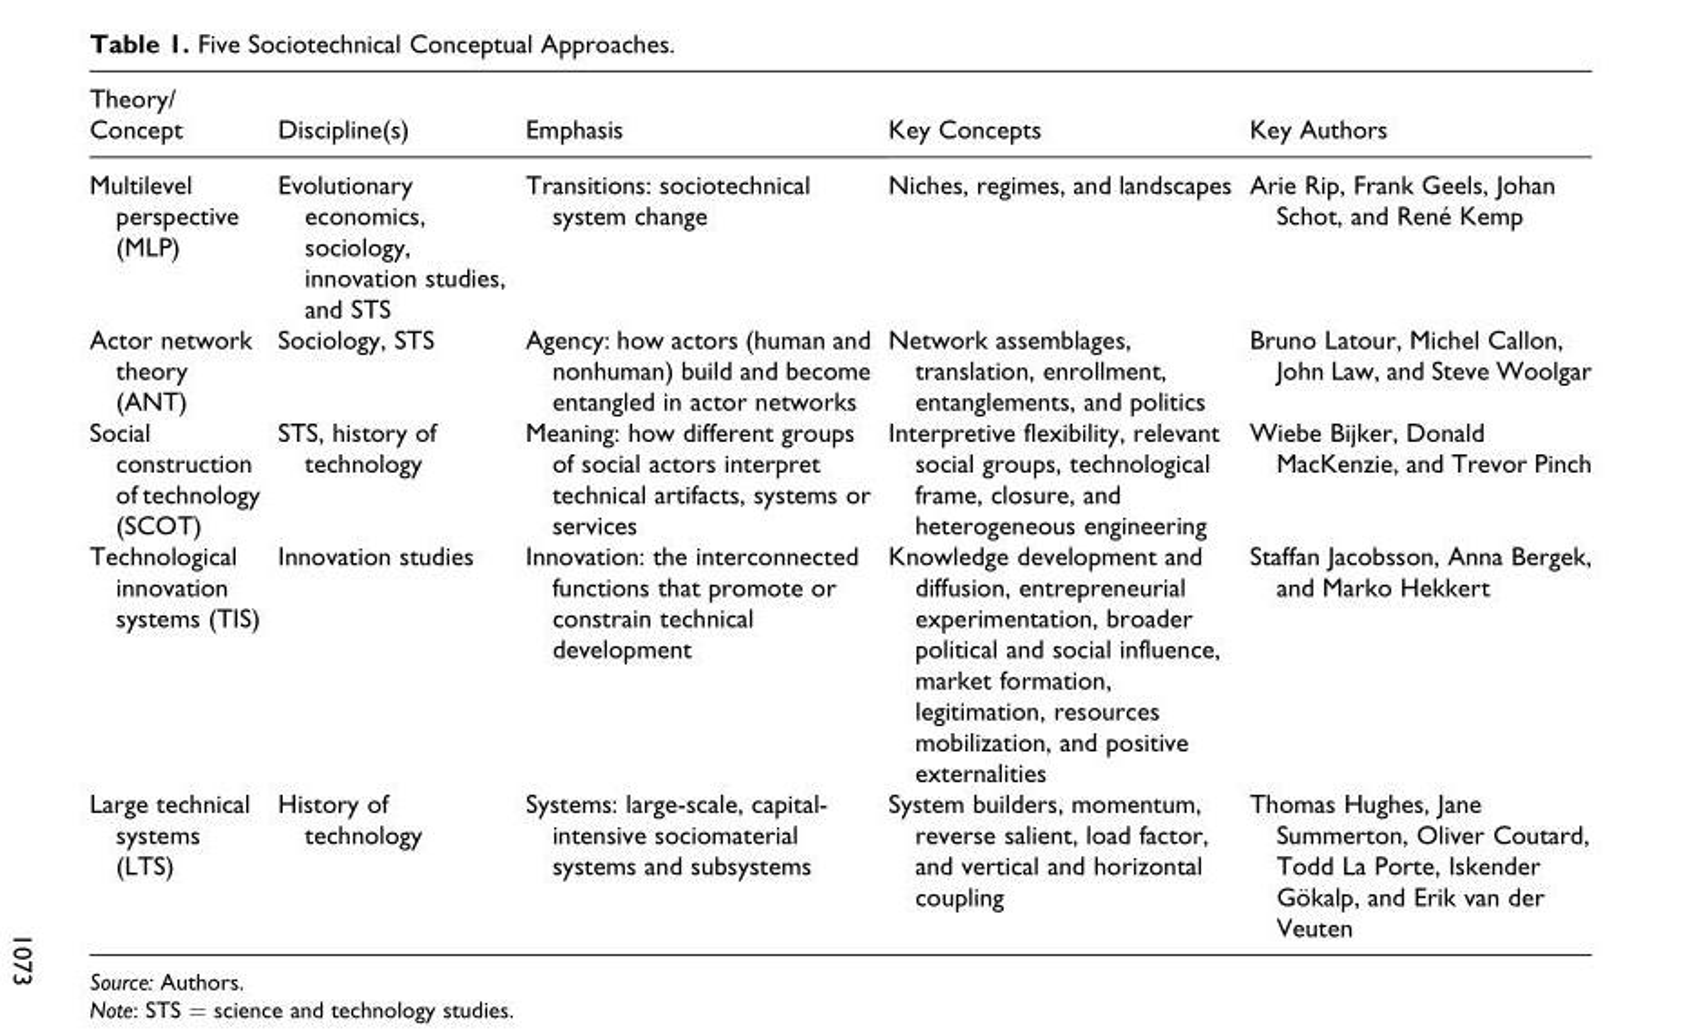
<table><thead><tr><td>Theory/ Concept</td><td>Discipline(s)</td><td>Emphasis</td><td>Key Concepts</td><td>Key Authors</td></tr></thead><tbody><tr><td>Multilevel perspective (MLP)</td><td>Evolutionary economics, sociology, innovation studies, and STS</td><td>Transitions: sociotechnical system change</td><td>Niches, regimes, and landscapes</td><td>Arie Rip, Frank Geels, Johan Schot, and Rene´ Kemp</td></tr><tr><td>Actor network theory (ANT)</td><td>Sociology, STS</td><td>Agency: how actors (human and nonhuman) build and become entangled in actor networks</td><td>Network assemblages, translation, enrollment, entanglements, and politics</td><td>Bruno Latour, Michel Callon, John Law, and Steve Woolgar</td></tr><tr><td>Social construction of technology (SCOT)</td><td>STS, history of technology</td><td>Meaning: how different groups of social actors interpret technical artifacts, systems or services</td><td>Interpretive flexibility, relevant social groups, technological frame, closure, and heterogeneous engineering</td><td>Wiebe Bijker, Donald MacKenzie, and Trevor Pinch</td></tr><tr><td>Technological innovation systems (TIS)</td><td>Innovation studies</td><td>Innovation: the interconnected functions that promote or constrain technical development</td><td>Knowledge development and diffusion, entrepreneurial experimentation, broader political and social influence, market formation, legitimation, resources mobilization, and positive externalities</td><td>Staffan Jacobsson, Anna Bergek, and Marko Hekkert</td></tr><tr><td>Large technical systems (LTS)</td><td>History of technology</td><td>Systems: large-scale, capital- intensive sociomaterial systems and subsystems</td><td>System builders, momentum, reverse salient, load factor, and vertical and horizontal coupling</td><td>Thomas Hughes, Jane Summerton, Oliver Coutard, Todd La Porte, Iskender Go¨kalp, and Erik van der Veuten</td></tr></tbody></table>